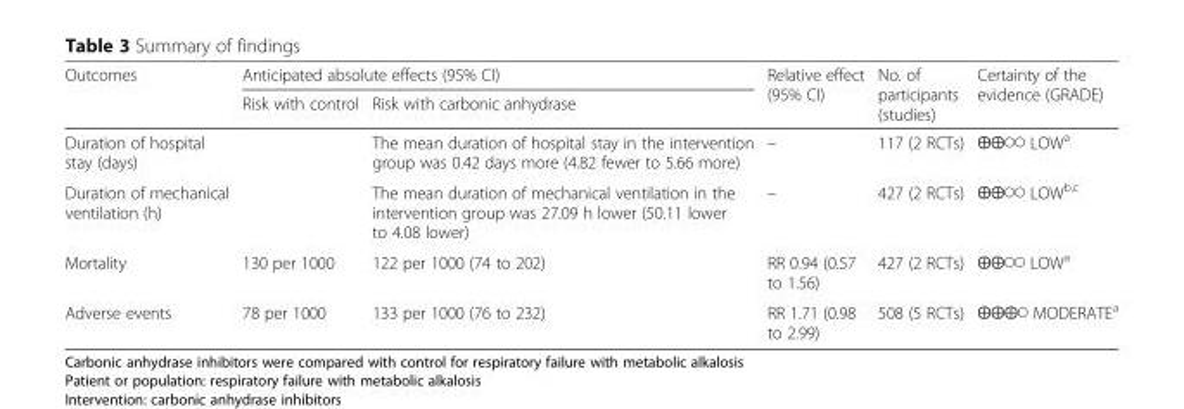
<table><thead><tr><td rowspan="2">Outcomes</td><td colspan="2">Anticipated absolute effects (95% CI)</td><td rowspan="2">Relative effect (95% CI)</td><td rowspan="2">No. of participants (studies)</td><td rowspan="2">Certainty of the evidence (GRADE)</td></tr><tr><td>Risk with control</td><td>Risk with carbonic anhydrase</td></tr></thead><tbody><tr><td>Duration of hospital stay (days)</td><td></td><td>The mean duration of hospital stay in the intervention group was 0.42 days more (4.82 fewer to 5.66 more)</td><td>–</td><td>117 (2 RCTs)</td><td>⨁⨁◯◯ LOW<sup>a</sup></td></tr><tr><td>Duration of mechanical ventilation (h)</td><td></td><td>The mean duration of mechanical ventilation in the intervention group was 27.09 h lower (50.11 lower to 4.08 lower)</td><td>–</td><td>427 (2 RCTs)</td><td>⨁⨁◯◯ LOW<sup>b,c</sup></td></tr><tr><td>Mortality</td><td>130 per 1000</td><td>122 per 1000 (74 to 202)</td><td>RR 0.94 (0.57 to 1.56)</td><td>427 (2 RCTs)</td><td>⨁⨁◯◯ LOW<sup>a</sup></td></tr><tr><td>Adverse events</td><td>78 per 1000</td><td>133 per 1000 (76 to 232)</td><td>RR 1.71 (0.98 to 2.99)</td><td>508 (5 RCTs)</td><td>⨁⨁⨁◯ MODERATE<sup>a</sup></td></tr></tbody></table>